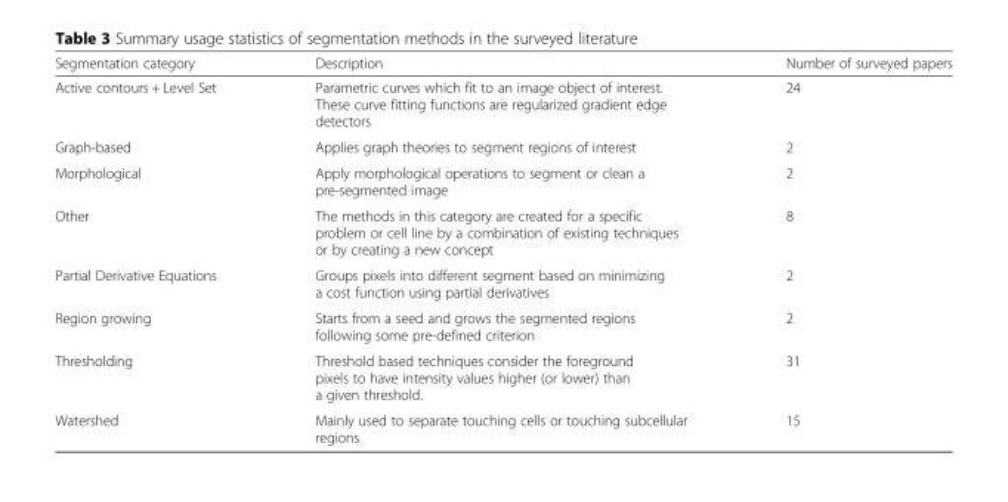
<table><thead><tr><td>Segmentation category</td><td>Description</td><td>Number of surveyed papers</td></tr></thead><tbody><tr><td>Active contours + Level Set</td><td>Parametric curves which fit to an image object of interest. These curve fitting functions are regularized gradient edge detectors</td><td>24</td></tr><tr><td>Graph-based</td><td>Applies graph theories to segment regions of interest</td><td>2</td></tr><tr><td>Morphological</td><td>Apply morphological operations to segment or clean a pre-segmented image</td><td>2</td></tr><tr><td>Other</td><td>The methods in this category are created for a specific problem or cell line by a combination of existing techniques or by creating a new concept</td><td>8</td></tr><tr><td>Partial Derivative Equations</td><td>Groups pixels into different segment based on minimizing a cost function using partial derivatives</td><td>2</td></tr><tr><td>Region growing</td><td>Starts from a seed and grows the segmented regions following some pre-defined criterion</td><td>2</td></tr><tr><td>Thresholding</td><td>Threshold based techniques consider the foreground pixels to have intensity values higher (or lower) than a given threshold.</td><td>31</td></tr><tr><td>Watershed</td><td>Mainly used to separate touching cells or touching subcellular regions</td><td>15</td></tr></tbody></table>